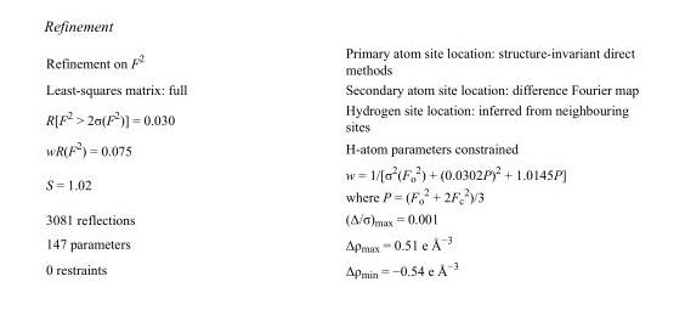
<table><tbody><tr><td>Refinement on F<sup>2</sup></td><td>Primary atom site location: structure-invariant direct methods</td></tr><tr><td>Least-squares matrix: full</td><td>Secondary atom site location: difference Fourier map</td></tr><tr><td>R[F<sup>2</sup> &gt; 2σ(F<sup>2</sup>)] = 0.030</td><td>Hydrogen site location: inferred from neighbouring sites</td></tr><tr><td>wR(F<sup>2</sup>) = 0.075</td><td>H-atom parameters constrained</td></tr><tr><td>S = 1.02</td><td>w = 1/[σ<sup>2</sup>(F<sub>o</sub> <sup>2</sup>) + (0.0302P)<sup>2</sup> + 1.0145P] where P = (F<sub>o</sub> <sup>2</sup> + 2F<sub>c</sub> <sup>2</sup>)/3</td></tr><tr><td>3081 reflections</td><td>(Δ/σ)<sub>max</sub> = 0.001</td></tr><tr><td>147 parameters</td><td>Δρ<sub>max</sub> = 0.51 e Å<sup>−3</sup></td></tr><tr><td>0 restraints</td><td>Δρ<sub>min</sub> = −0.54 e Å<sup>−3</sup></td></tr></tbody></table>